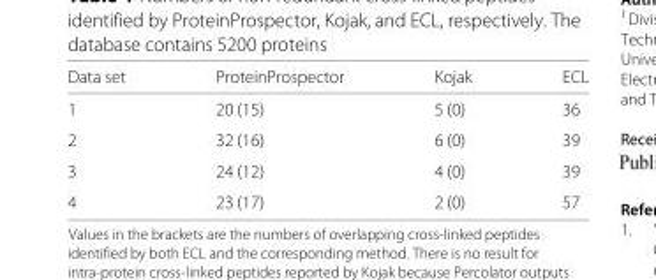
<table><thead><tr><td>Data set</td><td>ProteinProspector</td><td>Kojak</td><td>ECL</td></tr></thead><tbody><tr><td>1</td><td>20 (15)</td><td>5 (0)</td><td>36</td></tr><tr><td>2</td><td>32 (16)</td><td>6 (0)</td><td>39</td></tr><tr><td>3</td><td>24 (12)</td><td>4 (0)</td><td>39</td></tr><tr><td>4</td><td>23 (17)</td><td>2 (0)</td><td>57</td></tr></tbody></table>